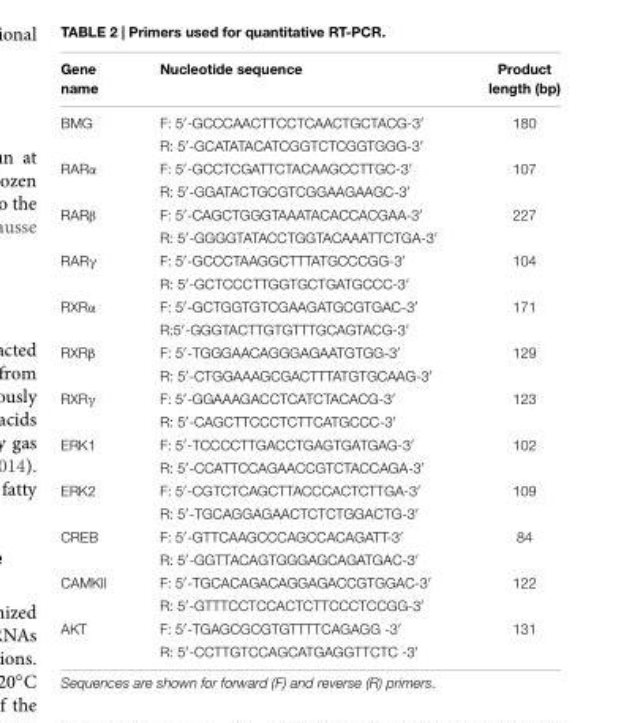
<table><thead><tr><td>Gene name</td><td>Nucleotide sequence</td><td>Product length (bp)</td></tr></thead><tbody><tr><td rowspan="2">BMG</td><td>F: 5′-GCCCAACTTCCTCAACTGCTACG-3′</td><td>180</td></tr><tr><td>R: 5′-GCATATACATCGGTCTCGGTGGG-3′</td><td></td></tr><tr><td rowspan="2">RARα</td><td>F: 5′-GCCTCGATTCTACAAGCCTTGC-3′</td><td>107</td></tr><tr><td>R: 5′-GGATACTGCGTCGGAAGAAGC-3′</td><td></td></tr><tr><td rowspan="2">RARβ</td><td>F: 5′-CAGCTGGGTAAATACACCACGAA-3′</td><td>227</td></tr><tr><td>R: 5′-GGGGTATACCTGGTACAAATTCTGA-3′</td><td></td></tr><tr><td rowspan="2">RARγ</td><td>F: 5′-GCCCTAAGGCTTTATGCCCGG-3′</td><td>104</td></tr><tr><td>R: 5′-GCTCCCTTGGTGCTGATGCCC-3′</td><td></td></tr><tr><td rowspan="2">RXRα</td><td>F: 5′-GCTGGTGTCGAAGATGCGTGAC-3′</td><td>171</td></tr><tr><td>R:5′-GGGTACTTGTGTTTGCAGTACG-3′</td><td></td></tr><tr><td rowspan="2">RXRβ</td><td>F: 5′-TGGGAACAGGGAGAATGTGG-3′</td><td>129</td></tr><tr><td>R: 5′-CTGGAAAGCGACTTTATGTGCAAG-3′</td><td></td></tr><tr><td rowspan="2">RXRγ</td><td>F: 5′-GGAAAGACCTCATCTACACG-3′</td><td>123</td></tr><tr><td>R: 5′-CAGCTTCCCTCTTCATGCCC-3′</td><td></td></tr><tr><td rowspan="2">ERK1</td><td>F: 5′-TCCCCTTGACCTGAGTGATGAG-3′</td><td>102</td></tr><tr><td>R: 5′-CCATTCCAGAACCGTCTACCAGA-3′</td><td></td></tr><tr><td rowspan="2">ERK2</td><td>F: 5′-CGTCTCAGCTTACCCACTCTTGA-3′</td><td>109</td></tr><tr><td>R: 5′-TGCAGGAGAACTCTCTGGACTG-3′</td><td></td></tr><tr><td rowspan="2">CREB</td><td>F: 5′-GTTCAAGCCCAGCCACAGATT-3′</td><td>84</td></tr><tr><td>R: 5′-GGTTACAGTGGGAGCAGATGAC-3′</td><td></td></tr><tr><td rowspan="2">CAMKII</td><td>F: 5′-TGCACAGACAGGAGACCGTGGAC-3′</td><td>122</td></tr><tr><td>R: 5′-GTTTCCTCCACTCTTCCCTCCGG-3′</td><td></td></tr><tr><td rowspan="2">AKT</td><td>F: 5′-TGAGCGCGTGTTTTCAGAGG -3′</td><td>131</td></tr><tr><td>R: 5′-CCTTGTCCAGCATGAGGTTCTC -3′</td><td></td></tr></tbody></table>